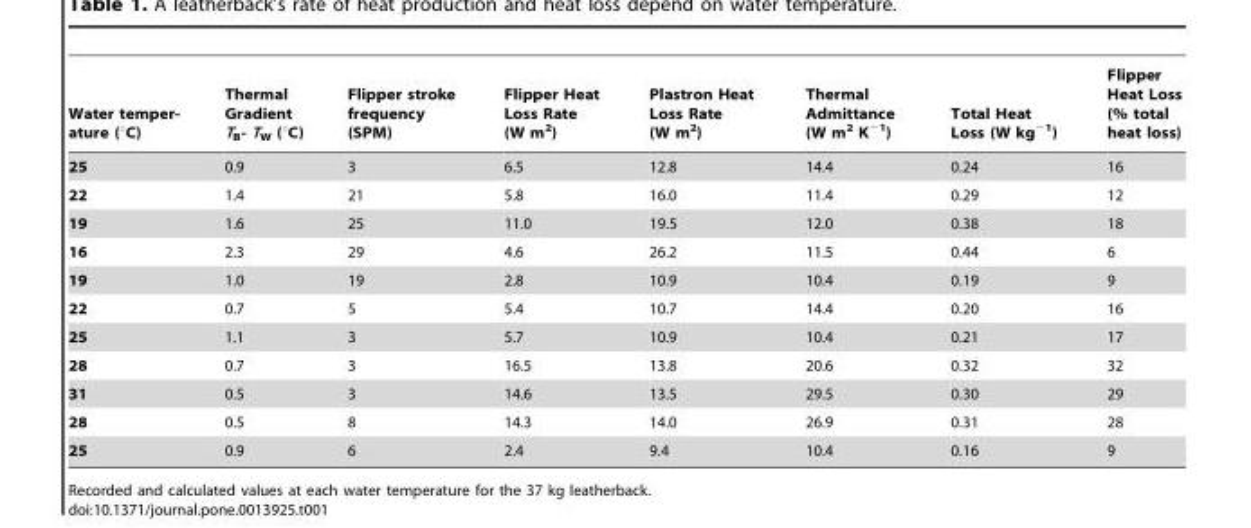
<table><thead><tr><td>Water temper- ature (uC)</td><td>Thermal Gradient T<sub>B</sub>- T<sub>W</sub> (°C)</td><td>Flipper stroke frequency (SPM)</td><td>Flipper Heat Loss Rate (W m<sup>2</sup>)</td><td>Plastron Heat Loss Rate (W m<sup>2</sup>)</td><td>Thermal Admittance (W m<sup>2</sup> K<sup>−1</sup>)</td><td>Total Heat Loss (W kg<sup>−1</sup>)</td><td>Flipper Heat Loss (% total heat loss)</td></tr></thead><tbody><tr><td>25</td><td>0.9</td><td>3</td><td>6.5</td><td>12.8</td><td>14.4</td><td>0.24</td><td>16</td></tr><tr><td>22</td><td>1.4</td><td>21</td><td>5.8</td><td>16.0</td><td>11.4</td><td>0.29</td><td>12</td></tr><tr><td>19</td><td>1.6</td><td>25</td><td>11.0</td><td>19.5</td><td>12.0</td><td>0.38</td><td>18</td></tr><tr><td>16</td><td>2.3</td><td>29</td><td>4.6</td><td>26.2</td><td>11.5</td><td>0.44</td><td>6</td></tr><tr><td>19</td><td>1.0</td><td>19</td><td>2.8</td><td>10.9</td><td>10.4</td><td>0.19</td><td>9</td></tr><tr><td>22</td><td>0.7</td><td>5</td><td>5.4</td><td>10.7</td><td>14.4</td><td>0.20</td><td>16</td></tr><tr><td>25</td><td>1.1</td><td>3</td><td>5.7</td><td>10.9</td><td>10.4</td><td>0.21</td><td>17</td></tr><tr><td>28</td><td>0.7</td><td>3</td><td>16.5</td><td>13.8</td><td>20.6</td><td>0.32</td><td>32</td></tr><tr><td>31</td><td>0.5</td><td>3</td><td>14.6</td><td>13.5</td><td>29.5</td><td>0.30</td><td>29</td></tr><tr><td>28</td><td>0.5</td><td>8</td><td>14.3</td><td>14.0</td><td>26.9</td><td>0.31</td><td>28</td></tr><tr><td>25</td><td>0.9</td><td>6</td><td>2.4</td><td>9.4</td><td>10.4</td><td>0.16</td><td>9</td></tr></tbody></table>